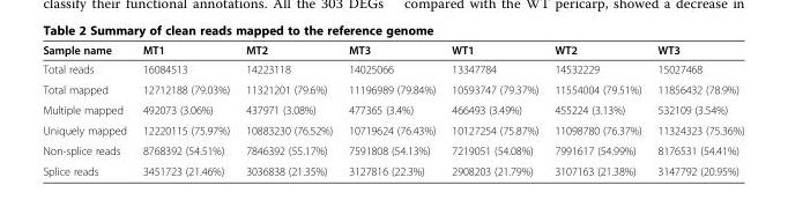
<table><thead><tr><td>Sample name</td><td>MT1</td><td>MT2</td><td>MT3</td><td>WT1</td><td>WT2</td><td>WT3</td></tr></thead><tbody><tr><td>Total reads</td><td>16084513</td><td>14223118</td><td>14025066</td><td>13347784</td><td>14532229</td><td>15027468</td></tr><tr><td>Total mapped</td><td>12712188 (79.03%)</td><td>11321201 (79.6%)</td><td>11196989 (79.84%)</td><td>10593747 (79.37%)</td><td>11554004 (79.51%)</td><td>11856432 (78.9%)</td></tr><tr><td>Multiple mapped</td><td>492073 (3.06%)</td><td>437971 (3.08%)</td><td>477365 (3.4%)</td><td>466493 (3.49%)</td><td>455224 (3.13%)</td><td>532109 (3.54%)</td></tr><tr><td>Uniquely mapped</td><td>12220115 (75.97%)</td><td>10883230 (76.52%)</td><td>10719624 (76.43%)</td><td>10127254 (75.87%)</td><td>11098780 (76.37%)</td><td>11324323 (75.36%)</td></tr><tr><td>Non-splice reads</td><td>8768392 (54.51%)</td><td>7846392 (55.17%)</td><td>7591808 (54.13%)</td><td>7219051 (54.08%)</td><td>7991617 (54.99%)</td><td>8176531 (54.41%)</td></tr><tr><td>Splice reads</td><td>3451723 (21.46%)</td><td>3036838 (21.35%)</td><td>3127816 (22.3%)</td><td>2908203 (21.79%)</td><td>3107163 (21.38%)</td><td>3147792 (20.95%)</td></tr></tbody></table>